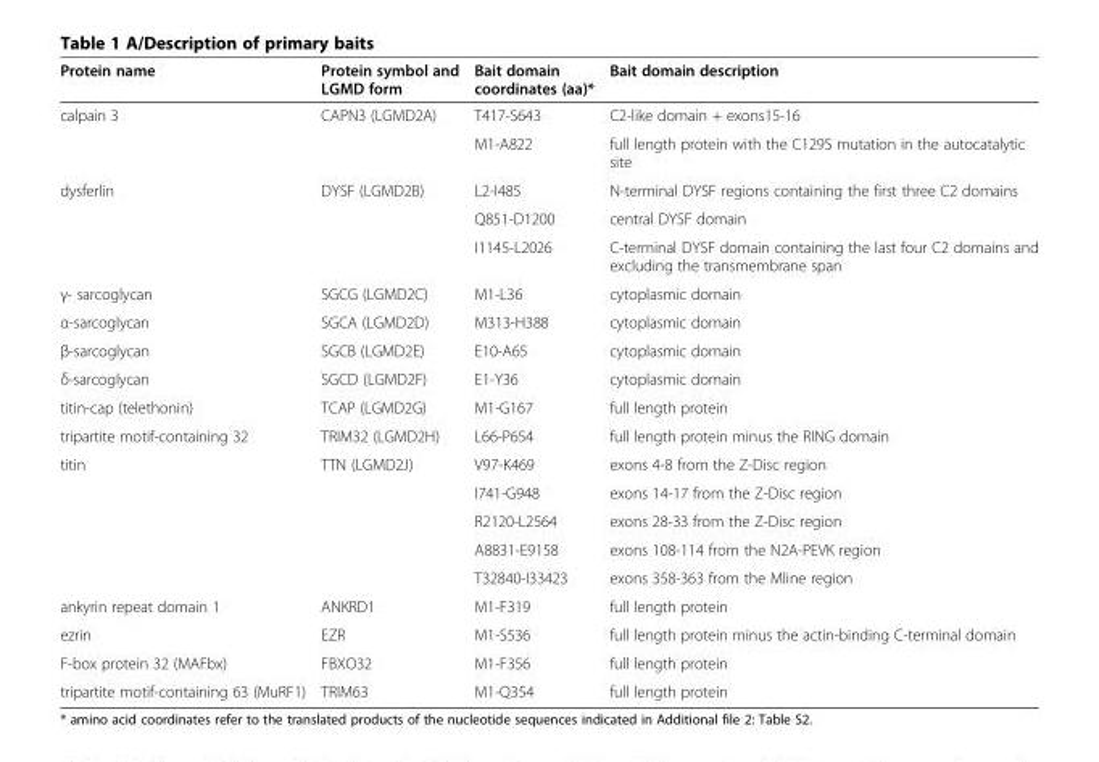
<table><thead><tr><td>Protein name</td><td>Protein symbol and LGMD form</td><td>Bait domain coordinates (aa)*</td><td>Bait domain description</td></tr></thead><tbody><tr><td rowspan="2">calpain 3</td><td>CAPN3 (LGMD2A)</td><td>T417-S643</td><td>C2-like domain + exons15-16</td></tr><tr><td></td><td>M1-A822</td><td>full length protein with the C129S mutation in the autocatalytic site</td></tr><tr><td rowspan="3">dysferlin</td><td>DYSF (LGMD2B)</td><td>L2-I485</td><td>N-terminal DYSF regions containing the first three C2 domains</td></tr><tr><td></td><td>Q851-D1200</td><td>central DYSF domain</td></tr><tr><td></td><td>I1145-L2026</td><td>C-terminal DYSF domain containing the last four C2 domains and excluding the transmembrane span</td></tr><tr><td>γ- sarcoglycan</td><td>SGCG (LGMD2C)</td><td>M1-L36</td><td>cytoplasmic domain</td></tr><tr><td>α-sarcoglycan</td><td>SGCA (LGMD2D)</td><td>M313-H388</td><td>cytoplasmic domain</td></tr><tr><td>β-sarcoglycan</td><td>SGCB (LGMD2E)</td><td>E10-A65</td><td>cytoplasmic domain</td></tr><tr><td>δ-sarcoglycan</td><td>SGCD (LGMD2F)</td><td>E1-Y36</td><td>cytoplasmic domain</td></tr><tr><td>titin-cap (telethonin)</td><td>TCAP (LGMD2G)</td><td>M1-G167</td><td>full length protein</td></tr><tr><td>tripartite motif-containing 32</td><td>TRIM32 (LGMD2H)</td><td>L66-P654</td><td>full length protein minus the RING domain</td></tr><tr><td rowspan="5">titin</td><td rowspan="5">TTN (LGMD2J)</td><td>V97-K469</td><td>exons 4-8 from the Z-Disc region</td></tr><tr><td>I741-G948</td><td>exons 14-17 from the Z-Disc region</td></tr><tr><td>R2120-L2564</td><td>exons 28-33 from the Z-Disc region</td></tr><tr><td>A8831-E9158</td><td>exons 108-114 from the N2A-PEVK region</td></tr><tr><td>T32840-I33423</td><td>exons 358-363 from the Mline region</td></tr><tr><td>ankyrin repeat domain 1</td><td>ANKRD1</td><td>M1-F319</td><td>full length protein</td></tr><tr><td>ezrin</td><td>EZR</td><td>M1-S536</td><td>full length protein minus the actin-binding C-terminal domain</td></tr><tr><td>F-box protein 32 (MAFbx)</td><td>FBXO32</td><td>M1-F356</td><td>full length protein</td></tr><tr><td>tripartite motif-containing 63 (MuRF1)</td><td>TRIM63</td><td>M1-Q354</td><td>full length protein</td></tr></tbody></table>